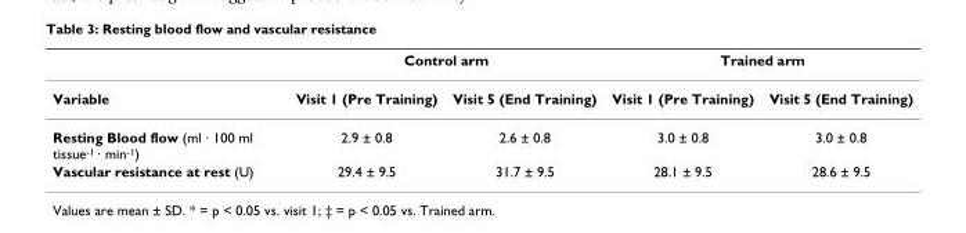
<table><thead><tr><td rowspan="2">Variable</td><td colspan="2">Control arm</td><td colspan="2">Trained arm</td></tr><tr><td>Visit 1 (Pre Training)</td><td>Visit 5 (End Training)</td><td>Visit 1 (Pre Training)</td><td>Visit 5 (End Training)</td></tr></thead><tbody><tr><td>Resting Blood flow (ml · 100 ml tissue<sup>-1</sup> · min<sup>-1</sup>)</td><td>2.9 ± 0.8</td><td>2.6 ± 0.8</td><td>3.0 ± 0.8</td><td>3.0 ± 0.8</td></tr><tr><td>Vascular resistance at rest (U)</td><td>29.4 ± 9.5</td><td>31.7 ± 9.5</td><td>28.1 ± 9.5</td><td>28.6 ± 9.5</td></tr></tbody></table>